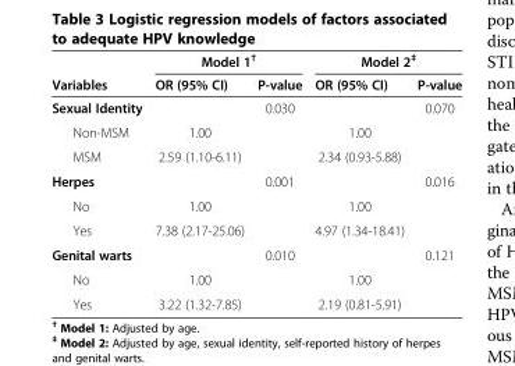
<table><thead><tr><td rowspan="2">Variables</td><td colspan="2">Model 1<sup>†</sup></td><td colspan="2">Model 2<sup>‡</sup></td></tr><tr><td>OR (95% CI)</td><td>P-value</td><td>OR (95% CI)</td><td>P-value</td></tr></thead><tbody><tr><td>Sexual Identity</td><td></td><td>0.030</td><td></td><td>0.070</td></tr><tr><td>Non-MSM</td><td>1.00</td><td></td><td>1.00</td><td></td></tr><tr><td>MSM</td><td>2.59 (1.10-6.11)</td><td></td><td>2.34 (0.93-5.88)</td><td></td></tr><tr><td>Herpes</td><td></td><td>0.001</td><td></td><td>0.016</td></tr><tr><td>No</td><td>1.00</td><td></td><td>1.00</td><td></td></tr><tr><td>Yes</td><td>7.38 (2.17-25.06)</td><td></td><td>4.97 (1.34-18.41)</td><td></td></tr><tr><td>Genital warts</td><td></td><td>0.010</td><td></td><td>0.121</td></tr><tr><td>No</td><td>1.00</td><td></td><td>1.00</td><td></td></tr><tr><td>Yes</td><td>3.22 (1.32-7.85)</td><td></td><td>2.19 (0.81-5.91)</td><td></td></tr></tbody></table>